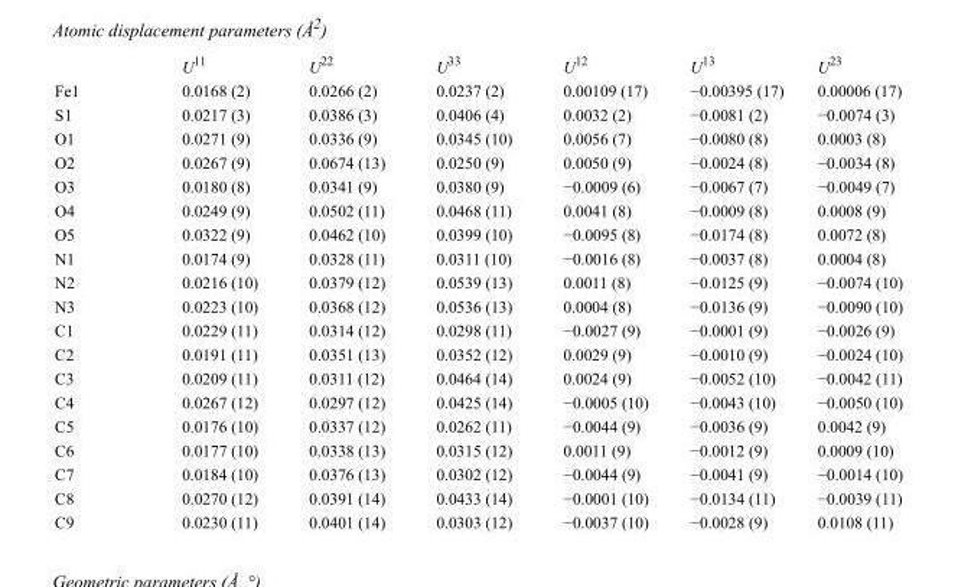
<table><thead><tr><td></td><td>U<sup>11</sup></td><td>U<sup>22</sup></td><td>U<sup>33</sup></td><td>U<sup>12</sup></td><td>U<sup>13</sup></td><td>U<sup>23</sup></td></tr></thead><tbody><tr><td>Fe1</td><td>0.0168 (2)</td><td>0.0266 (2)</td><td>0.0237 (2)</td><td>0.00109 (17)</td><td>−0.00395 (17)</td><td>0.00006 (17)</td></tr><tr><td>S1</td><td>0.0217 (3)</td><td>0.0386 (3)</td><td>0.0406 (4)</td><td>0.0032 (2)</td><td>−0.0081 (2)</td><td>−0.0074 (3)</td></tr><tr><td>O1</td><td>0.0271 (9)</td><td>0.0336 (9)</td><td>0.0345 (10)</td><td>0.0056 (7)</td><td>−0.0080 (8)</td><td>0.0003 (8)</td></tr><tr><td>O2</td><td>0.0267 (9)</td><td>0.0674 (13)</td><td>0.0250 (9)</td><td>0.0050 (9)</td><td>−0.0024 (8)</td><td>−0.0034 (8)</td></tr><tr><td>O3</td><td>0.0180 (8)</td><td>0.0341 (9)</td><td>0.0380 (9)</td><td>−0.0009 (6)</td><td>−0.0067 (7)</td><td>−0.0049 (7)</td></tr><tr><td>O4</td><td>0.0249 (9)</td><td>0.0502 (11)</td><td>0.0468 (11)</td><td>0.0041 (8)</td><td>−0.0009 (8)</td><td>0.0008 (9)</td></tr><tr><td>O5</td><td>0.0322 (9)</td><td>0.0462 (10)</td><td>0.0399 (10)</td><td>−0.0095 (8)</td><td>−0.0174 (8)</td><td>0.0072 (8)</td></tr><tr><td>N1</td><td>0.0174 (9)</td><td>0.0328 (11)</td><td>0.0311 (10)</td><td>−0.0016 (8)</td><td>−0.0037 (8)</td><td>0.0004 (8)</td></tr><tr><td>N2</td><td>0.0216 (10)</td><td>0.0379 (12)</td><td>0.0539 (13)</td><td>0.0011 (8)</td><td>−0.0125 (9)</td><td>−0.0074 (10)</td></tr><tr><td>N3</td><td>0.0223 (10)</td><td>0.0368 (12)</td><td>0.0536 (13)</td><td>0.0004 (8)</td><td>−0.0136 (9)</td><td>−0.0090 (10)</td></tr><tr><td>C1</td><td>0.0229 (11)</td><td>0.0314 (12)</td><td>0.0298 (11)</td><td>−0.0027 (9)</td><td>−0.0001 (9)</td><td>−0.0026 (9)</td></tr><tr><td>C2</td><td>0.0191 (11)</td><td>0.0351 (13)</td><td>0.0352 (12)</td><td>0.0029 (9)</td><td>−0.0010 (9)</td><td>−0.0024 (10)</td></tr><tr><td>C3</td><td>0.0209 (11)</td><td>0.0311 (12)</td><td>0.0464 (14)</td><td>0.0024 (9)</td><td>−0.0052 (10)</td><td>−0.0042 (11)</td></tr><tr><td>C4</td><td>0.0267 (12)</td><td>0.0297 (12)</td><td>0.0425 (14)</td><td>−0.0005 (10)</td><td>−0.0043 (10)</td><td>−0.0050 (10)</td></tr><tr><td>C5</td><td>0.0176 (10)</td><td>0.0337 (12)</td><td>0.0262 (11)</td><td>−0.0044 (9)</td><td>−0.0036 (9)</td><td>0.0042 (9)</td></tr><tr><td>C6</td><td>0.0177 (10)</td><td>0.0338 (13)</td><td>0.0315 (12)</td><td>0.0011 (9)</td><td>−0.0012 (9)</td><td>0.0009 (10)</td></tr><tr><td>C7</td><td>0.0184 (10)</td><td>0.0376 (13)</td><td>0.0302 (12)</td><td>−0.0044 (9)</td><td>−0.0041 (9)</td><td>−0.0014 (10)</td></tr><tr><td>C8</td><td>0.0270 (12)</td><td>0.0391 (14)</td><td>0.0433 (14)</td><td>−0.0001 (10)</td><td>−0.0134 (11)</td><td>−0.0039 (11)</td></tr><tr><td>C9</td><td>0.0230 (11)</td><td>0.0401 (14)</td><td>0.0303 (12)</td><td>−0.0037 (10)</td><td>−0.0028 (9)</td><td>0.0108 (11)</td></tr></tbody></table>